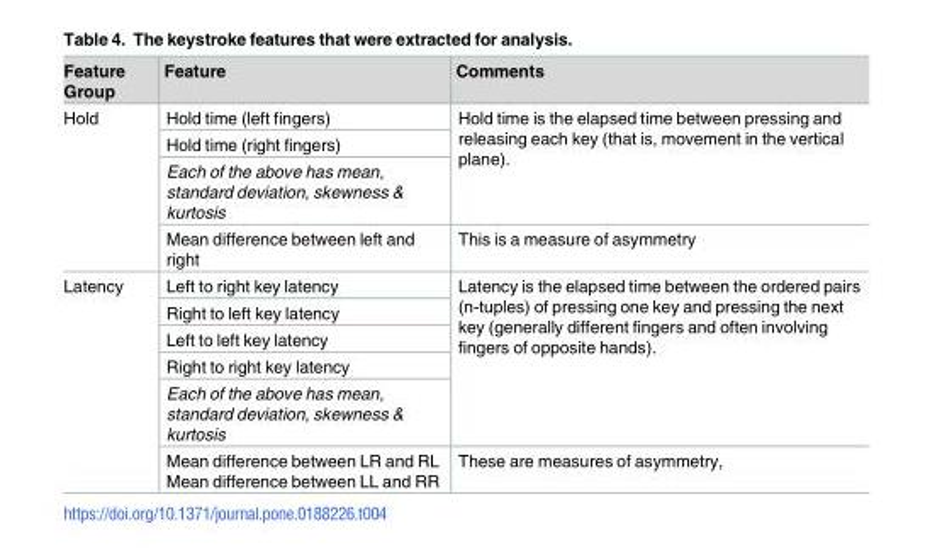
<table><thead><tr><td>Feature Group</td><td>Feature</td><td>Comments</td></tr></thead><tbody><tr><td rowspan="4">Hold</td><td>Hold time (left fingers)</td><td rowspan="3">Hold time is the elapsed time between pressing and releasing each key (that is, movement in the vertical plane).</td></tr><tr><td>Hold time (right fingers)</td></tr><tr><td>Each of the above has mean, standard deviation, skewness &amp; kurtosis</td></tr><tr><td>Mean difference between left and right</td><td>This is a measure of asymmetry</td></tr><tr><td rowspan="6">Latency</td><td>Left to right key latency</td><td rowspan="5">Latency is the elapsed time between the ordered pairs (n-tuples) of pressing one key and pressing the next key (generally different fingers and often involving fingers of opposite hands).</td></tr><tr><td>Right to left key latency</td></tr><tr><td>Left to left key latency</td></tr><tr><td>Right to right key latency</td></tr><tr><td>Each of the above has mean, standard deviation, skewness &amp; kurtosis</td></tr><tr><td>Mean difference between LR and RL Mean difference between LL and RR</td><td>These are measures of asymmetry,</td></tr></tbody></table>